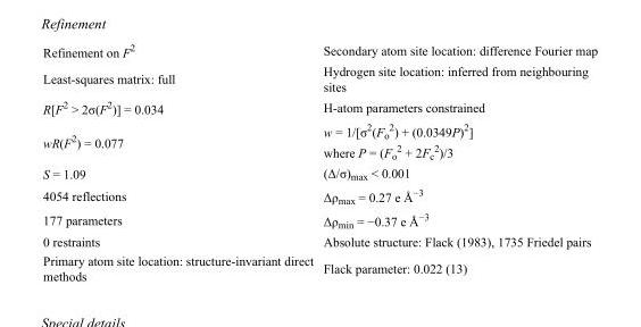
<table><tbody><tr><td>Refinement on F<sup>2</sup></td><td>Secondary atom site location: difference Fourier map</td></tr><tr><td>Least-squares matrix: full</td><td>Hydrogen site location: inferred from neighbouring sites</td></tr><tr><td>R[F<sup>2</sup> &gt; 2σ(F<sup>2</sup>)] = 0.034</td><td>H-atom parameters constrained</td></tr><tr><td>wR(F<sup>2</sup>) = 0.077</td><td>w = 1/[σ<sup>2</sup>(F<sub>o</sub> <sup>2</sup>) + (0.0349P)<sup>2</sup>] where P = (F<sub>o</sub> <sup>2</sup> + 2F<sub>c</sub> <sup>2</sup>)/3</td></tr><tr><td>S = 1.09</td><td>(Δ/σ)<sub>max</sub> &lt; 0.001</td></tr><tr><td>4054 reflections</td><td>Δρ<sub>max</sub> = 0.27 e Å<sup>−3</sup></td></tr><tr><td>177 parameters</td><td>Δρ<sub>min</sub> = −0.37 e Å<sup>−3</sup></td></tr><tr><td>0 restraints</td><td>Absolute structure: Flack (1983), 1735 Friedel pairs</td></tr><tr><td>Primary atom site location: structure-invariant direct methods</td><td>Flack parameter: 0.022 (13)</td></tr></tbody></table>